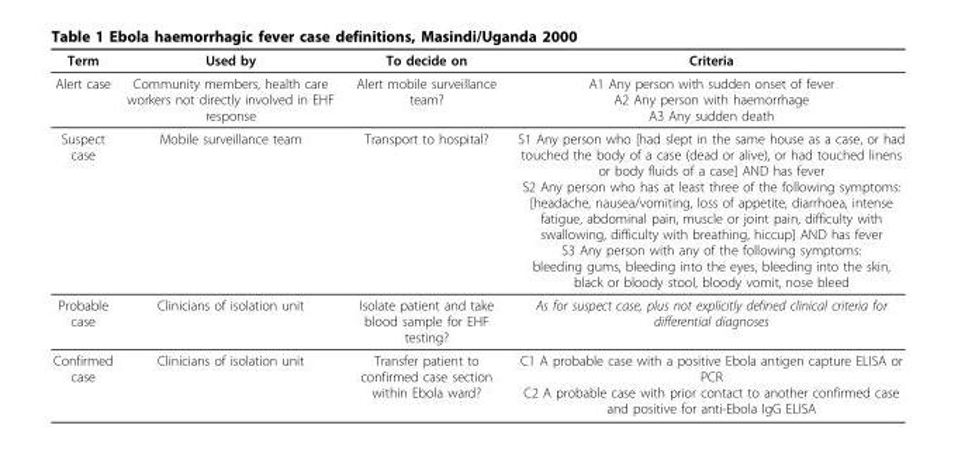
<table><thead><tr><td>Term</td><td>Used by</td><td>To decide on</td><td>Criteria</td></tr></thead><tbody><tr><td>Alert case</td><td>Community members, health care workers not directly involved in EHF response</td><td>Alert mobile surveillance team?</td><td>A1 Any person with sudden onset of fever A2 Any person with haemorrhage A3 Any sudden death</td></tr><tr><td>Suspect case</td><td>Mobile surveillance team</td><td>Transport to hospital?</td><td>S1 Any person who [had slept in the same house as a case, or had touched the body of a case (dead or alive), or had touched linens or body fluids of a case] AND has fever S2 Any person who has at least three of the following symptoms: [headache, nausea/vomiting, loss of appetite, diarrhoea, intense fatigue, abdominal pain, muscle or joint pain, difficulty with swallowing, difficulty with breathing, hiccup] AND has fever S3 Any person with any of the following symptoms: bleeding gums, bleeding into the eyes, bleeding into the skin, black or bloody stool, bloody vomit, nose bleed</td></tr><tr><td>Probable case</td><td>Clinicians of isolation unit</td><td>Isolate patient and take blood sample for EHF testing?</td><td>As for suspect case, plus not explicitly defined clinical criteria for differential diagnoses</td></tr><tr><td>Confirmed case</td><td>Clinicians of isolation unit</td><td>Transfer patient to confirmed case section within Ebola ward?</td><td>C1 A probable case with a positive Ebola antigen capture ELISA or PCR C2 A probable case with prior contact to another confirmed case and positive for anti-Ebola IgG ELISA</td></tr></tbody></table>